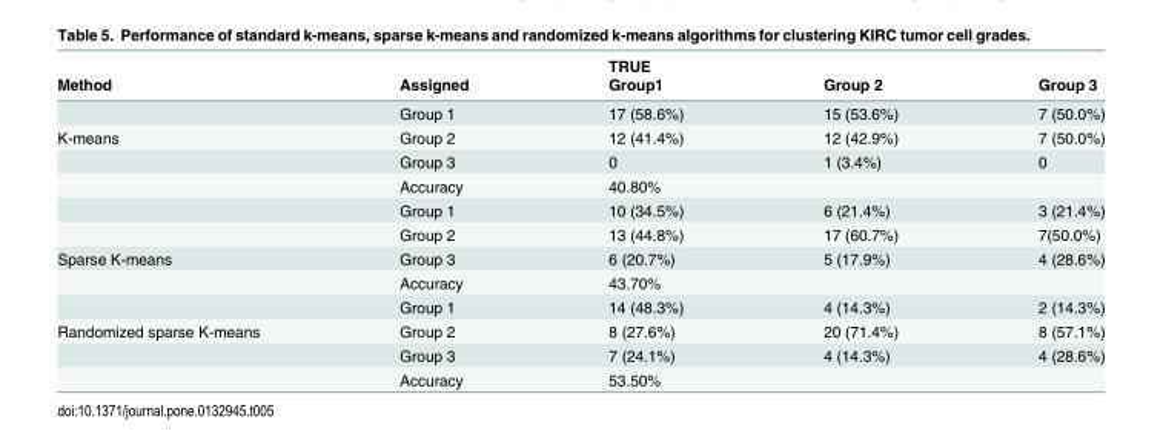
<table><thead><tr><td rowspan="2">Method</td><td rowspan="2">Assigned</td><td rowspan="2">TRUE Group1</td><td rowspan="2">Group 2</td><td rowspan="2">Group 3</td></tr><tr></tr></thead><tbody><tr><td></td><td>Group 1</td><td>17 (58.6%)</td><td>15 (53.6%)</td><td>7 (50.0%)</td></tr><tr><td rowspan="5">K-means</td><td>Group 2</td><td>12 (41.4%)</td><td>12 (42.9%)</td><td>7 (50.0%)</td></tr><tr><td>Group 3</td><td>0</td><td>1 (3.4%)</td><td>0</td></tr><tr><td>Accuracy</td><td>40.80%</td><td></td><td></td></tr><tr><td>Group 1</td><td>10 (34.5%)</td><td>6 (21.4%)</td><td>3 (21.4%)</td></tr><tr><td>Group 2</td><td>13 (44.8%)</td><td>17 (60.7%)</td><td>7(50.0%)</td></tr><tr><td rowspan="3">Sparse K-means</td><td>Group 3</td><td>6 (20.7%)</td><td>5 (17.9%)</td><td>4 (28.6%)</td></tr><tr><td>Accuracy</td><td>43.70%</td><td></td><td></td></tr><tr><td>Group 1</td><td>14 (48.3%)</td><td>4 (14.3%)</td><td>2 (14.3%)</td></tr><tr><td rowspan="3">Randomized sparse K-means</td><td>Group 2</td><td>8 (27.6%)</td><td>20 (71.4%)</td><td>8 (57.1%)</td></tr><tr><td>Group 3</td><td>7 (24.1%)</td><td>4 (14.3%)</td><td>4 (28.6%)</td></tr><tr><td>Accuracy</td><td>53.50%</td><td></td><td></td></tr></tbody></table>